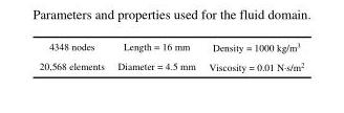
<table><tbody><tr><td>4348 nodes</td><td>Length = 16 mm</td><td>Density = 1000 kg/m<sup>3</sup></td></tr><tr><td>20,568 elements</td><td>Diameter = 4.5 mm</td><td>Viscosity = 0.01 N·s/m<sup>2</sup></td></tr></tbody></table>